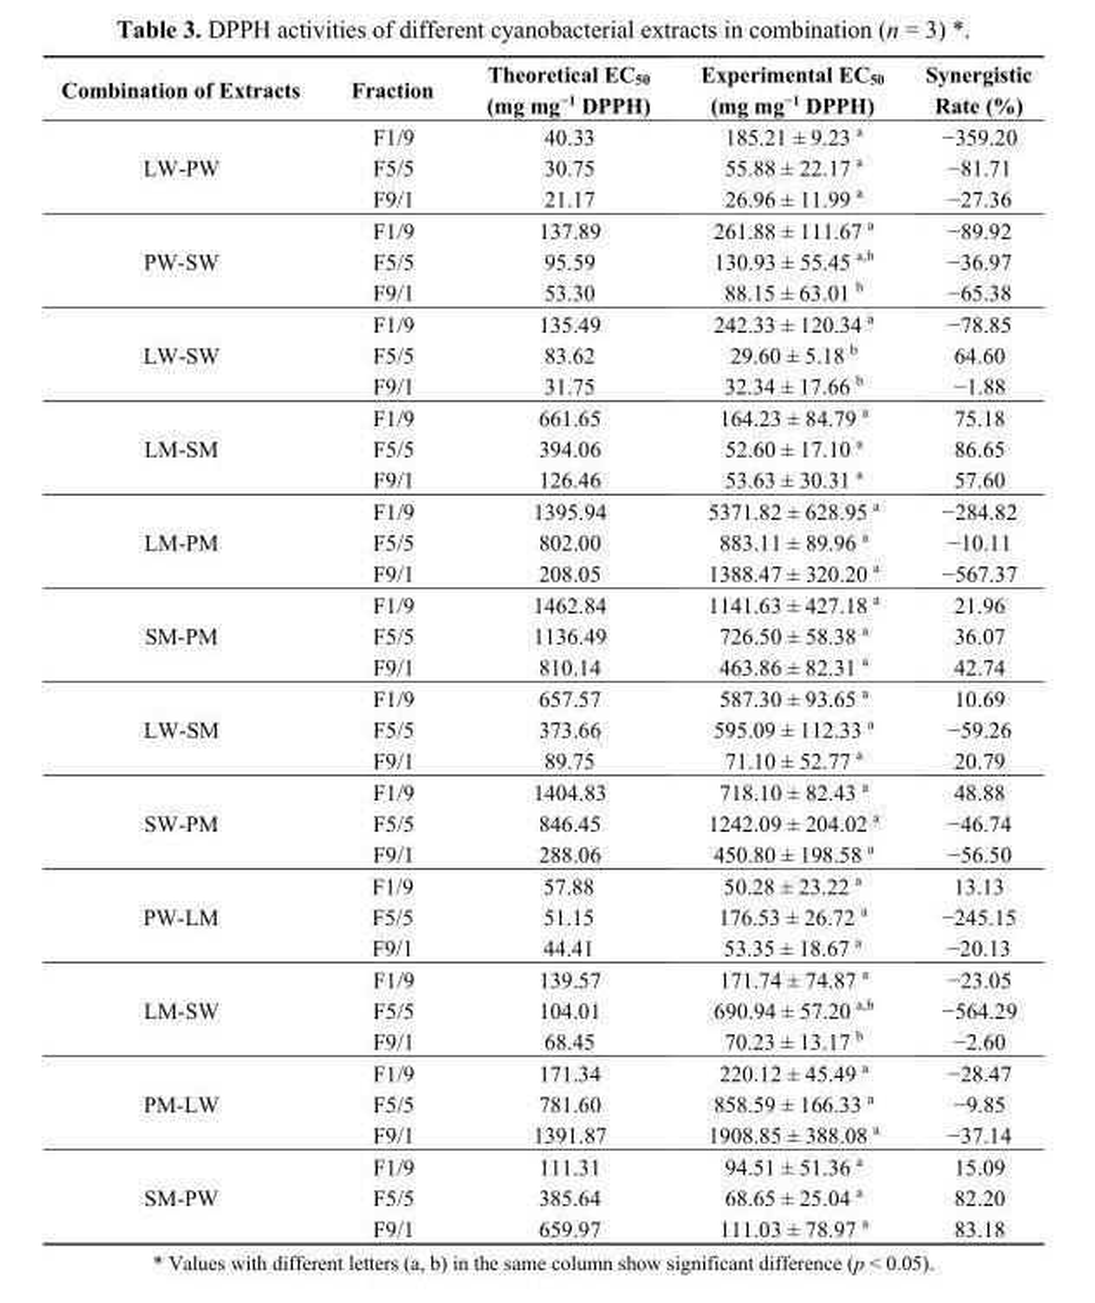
<table><thead><tr><td>Combination of Extracts</td><td>Fraction</td><td>Theoretical EC<sub>50</sub> (mg mg<sup>−1</sup> DPPH)</td><td>Experimental EC<sub>50</sub> (mg mg<sup>−1</sup> DPPH)</td><td>Synergistic Rate (%)</td></tr></thead><tbody><tr><td rowspan="3">LW-PW</td><td>F1/9</td><td>40.33</td><td>185.21 ± 9.23 <sup>a</sup></td><td>−359.20</td></tr><tr><td>F5/5</td><td>30.75</td><td>55.88 ± 22.17 <sup>a</sup></td><td>−81.71</td></tr><tr><td>F9/1</td><td>21.17</td><td>26.96 ± 11.99 <sup>a</sup></td><td>−27.36</td></tr><tr><td rowspan="3">PW-SW</td><td>F1/9</td><td>137.89</td><td>261.88 ± 111.67 <sup>a</sup></td><td>−89.92</td></tr><tr><td>F5/5</td><td>95.59</td><td>130.93 ± 55.45 <sup>a,b</sup></td><td>−36.97</td></tr><tr><td>F9/1</td><td>53.30</td><td>88.15 ± 63.01 <sup>b</sup></td><td>−65.38</td></tr><tr><td rowspan="3">LW-SW</td><td>F1/9</td><td>135.49</td><td>242.33 ± 120.34 <sup>a</sup></td><td>−78.85</td></tr><tr><td>F5/5</td><td>83.62</td><td>29.60 ± 5.18 <sup>b</sup></td><td>64.60</td></tr><tr><td>F9/1</td><td>31.75</td><td>32.34 ± 17.66 <sup>b</sup></td><td>−1.88</td></tr><tr><td rowspan="3">LM-SM</td><td>F1/9</td><td>661.65</td><td>164.23 ± 84.79 <sup>a</sup></td><td>75.18</td></tr><tr><td>F5/5</td><td>394.06</td><td>52.60 ± 17.10 <sup>a</sup></td><td>86.65</td></tr><tr><td>F9/1</td><td>126.46</td><td>53.63 ± 30.31 <sup>a</sup></td><td>57.60</td></tr><tr><td rowspan="3">LM-PM</td><td>F1/9</td><td>1395.94</td><td>5371.82 ± 628.95 <sup>a</sup></td><td>−284.82</td></tr><tr><td>F5/5</td><td>802.00</td><td>883.11 ± 89.96 <sup>a</sup></td><td>−10.11</td></tr><tr><td>F9/1</td><td>208.05</td><td>1388.47 ± 320.20 <sup>a</sup></td><td>−567.37</td></tr><tr><td rowspan="3">SM-PM</td><td>F1/9</td><td>1462.84</td><td>1141.63 ± 427.18 <sup>a</sup></td><td>21.96</td></tr><tr><td>F5/5</td><td>1136.49</td><td>726.50 ± 58.38 <sup>a</sup></td><td>36.07</td></tr><tr><td>F9/1</td><td>810.14</td><td>463.86 ± 82.31 <sup>a</sup></td><td>42.74</td></tr><tr><td rowspan="3">LW-SM</td><td>F1/9</td><td>657.57</td><td>587.30 ± 93.65 <sup>a</sup></td><td>10.69</td></tr><tr><td>F5/5</td><td>373.66</td><td>595.09 ± 112.33 <sup>a</sup></td><td>−59.26</td></tr><tr><td>F9/1</td><td>89.75</td><td>71.10 ± 52.77 <sup>a</sup></td><td>20.79</td></tr><tr><td rowspan="3">SW-PM</td><td>F1/9</td><td>1404.83</td><td>718.10 ± 82.43 <sup>a</sup></td><td>48.88</td></tr><tr><td>F5/5</td><td>846.45</td><td>1242.09 ± 204.02 <sup>a</sup></td><td>−46.74</td></tr><tr><td>F9/1</td><td>288.06</td><td>450.80 ± 198.58 <sup>a</sup></td><td>−56.50</td></tr><tr><td rowspan="3">PW-LM</td><td>F1/9</td><td>57.88</td><td>50.28 ± 23.22 <sup>a</sup></td><td>13.13</td></tr><tr><td>F5/5</td><td>51.15</td><td>176.53 ± 26.72 <sup>a</sup></td><td>−245.15</td></tr><tr><td>F9/1</td><td>44.41</td><td>53.35 ± 18.67 <sup>a</sup></td><td>−20.13</td></tr><tr><td rowspan="3">LM-SW</td><td>F1/9</td><td>139.57</td><td>171.74 ± 74.87 <sup>a</sup></td><td>−23.05</td></tr><tr><td>F5/5</td><td>104.01</td><td>690.94 ± 57.20 <sup>a,b</sup></td><td>−564.29</td></tr><tr><td>F9/1</td><td>68.45</td><td>70.23 ± 13.17 <sup>b</sup></td><td>−2.60</td></tr><tr><td rowspan="3">PM-LW</td><td>F1/9</td><td>171.34</td><td>220.12 ± 45.49 <sup>a</sup></td><td>−28.47</td></tr><tr><td>F5/5</td><td>781.60</td><td>858.59 ± 166.33 <sup>a</sup></td><td>−9.85</td></tr><tr><td>F9/1</td><td>1391.87</td><td>1908.85 ± 388.08 <sup>a</sup></td><td>−37.14</td></tr><tr><td rowspan="3">SM-PW</td><td>F1/9</td><td>111.31</td><td>94.51 ± 51.36 <sup>a</sup></td><td>15.09</td></tr><tr><td>F5/5</td><td>385.64</td><td>68.65 ± 25.04 <sup>a</sup></td><td>82.20</td></tr><tr><td>F9/1</td><td>659.97</td><td>111.03 ± 78.97 <sup>a</sup></td><td>83.18</td></tr></tbody></table>